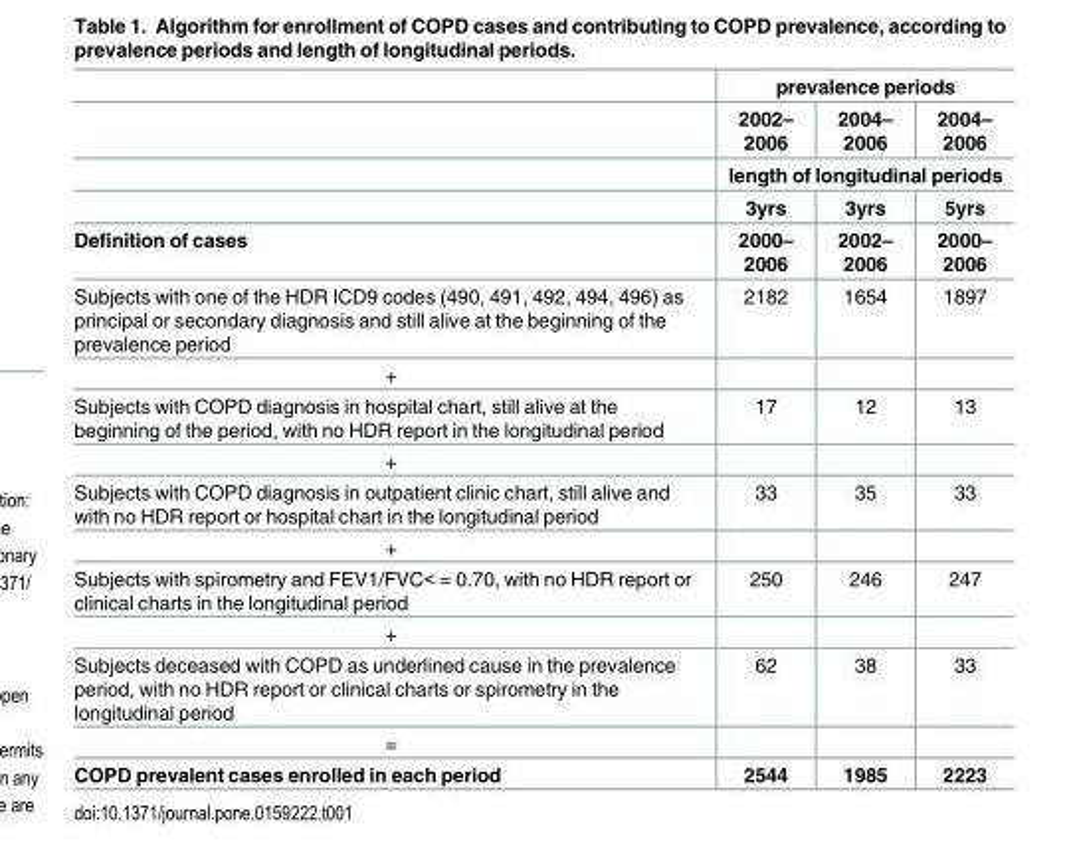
<table><thead><tr><td rowspan="5">Definition of cases</td><td colspan="3">prevalence periods</td></tr><tr><td>2002– 2006</td><td>2004– 2006</td><td>2004– 2006</td></tr><tr><td colspan="3">length of longitudinal periods</td></tr><tr><td rowspan="2">3yrs 2000– 2006</td><td rowspan="2">3yrs 2002– 2006</td><td rowspan="2">5yrs 2000– 2006</td></tr><tr></tr></thead><tbody><tr><td>Subjects with one of the HDR ICD9 codes (490, 491, 492, 494, 496) as principal or secondary diagnosis and still alive at the beginning of the prevalence period</td><td>2182</td><td>1654</td><td>1897</td></tr><tr><td colspan="4">+</td></tr><tr><td>Subjects with COPD diagnosis in hospital chart, still alive at the beginning of the period, with no HDR report in the longitudinal period</td><td>17</td><td>12</td><td>13</td></tr><tr><td colspan="4">+</td></tr><tr><td>Subjects with COPD diagnosis in outpatient clinic chart, still alive and with no HDR report or hospital chart in the longitudinal period</td><td>33</td><td>35</td><td>33</td></tr><tr><td colspan="4">+</td></tr><tr><td>Subjects with spirometry and FEV1/FVC&lt; = 0.70, with no HDR report or clinical charts in the longitudinal period</td><td>250</td><td>246</td><td>247</td></tr><tr><td colspan="4">+</td></tr><tr><td>Subjects deceased with COPD as underlined cause in the prevalence period, with no HDR report or clinical charts or spirometry in the longitudinal period</td><td>62</td><td>38</td><td>33</td></tr><tr><td colspan="4">=</td></tr><tr><td>COPD prevalent cases enrolled in each period</td><td>2544</td><td>1985</td><td>2223</td></tr></tbody></table>